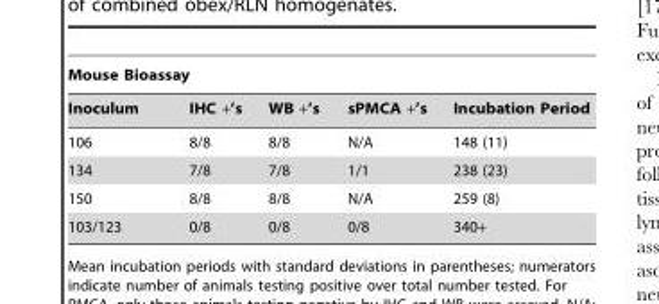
<table><thead><tr><td colspan="5">Mouse Bioassay</td></tr><tr><td>Inoculum</td><td>IHC +’s</td><td>WB +’s</td><td>sPMCA +’s</td><td>Incubation Period</td></tr></thead><tbody><tr><td>106</td><td>8/8</td><td>8/8</td><td>N/A</td><td>148 (11)</td></tr><tr><td>134</td><td>7/8</td><td>7/8</td><td>1/1</td><td>238 (23)</td></tr><tr><td>150</td><td>8/8</td><td>8/8</td><td>N/A</td><td>259 (8)</td></tr><tr><td>103/123</td><td>0/8</td><td>0/8</td><td>0/8</td><td>340+</td></tr></tbody></table>